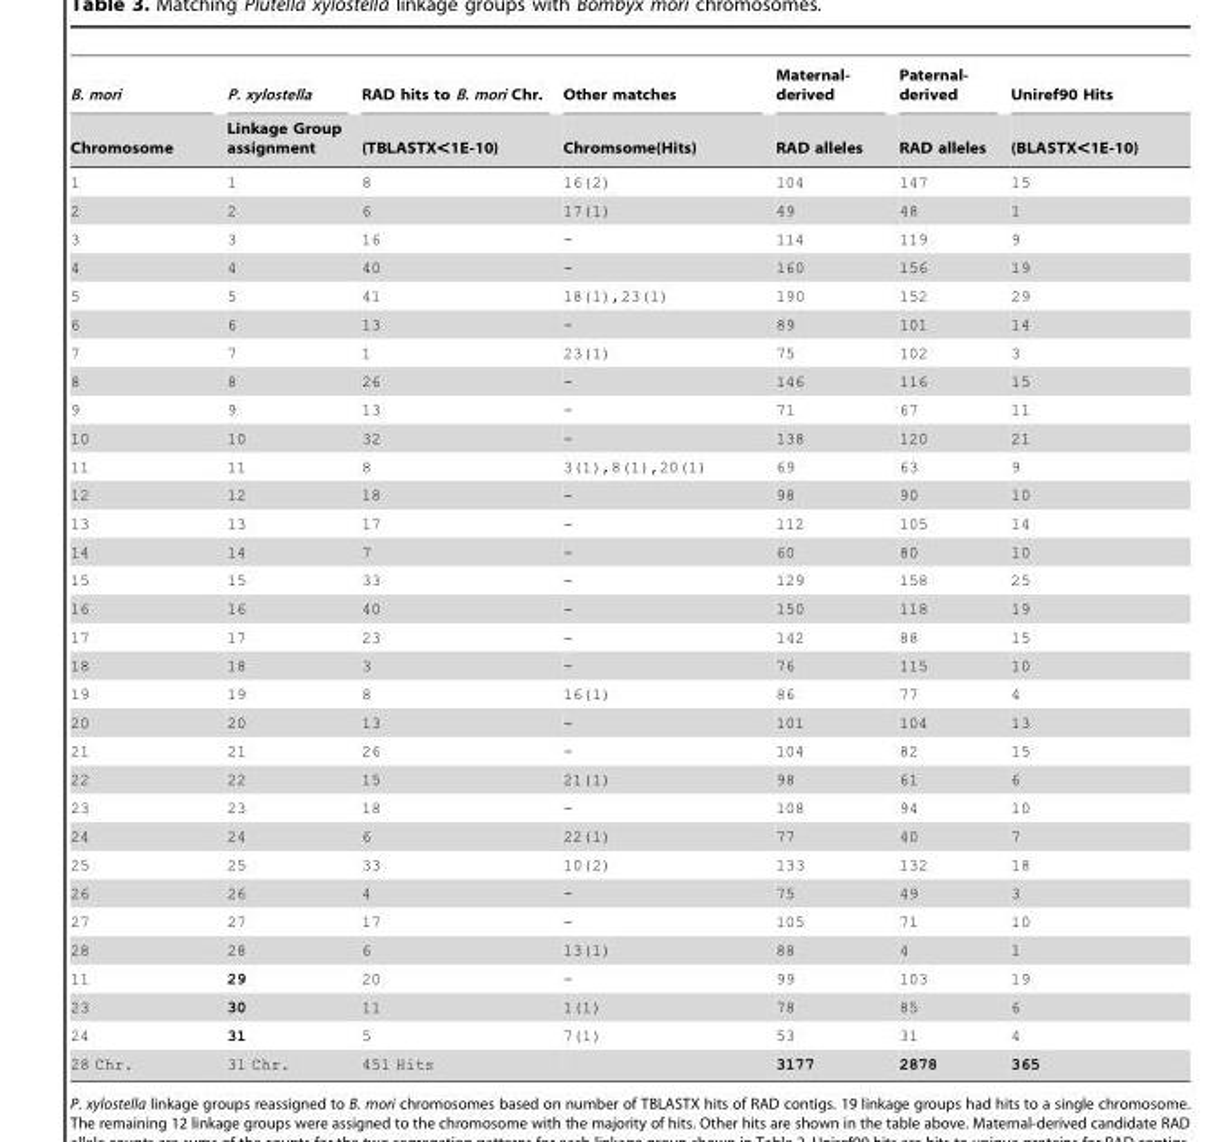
<table><thead><tr><td rowspan="2">B. mori Chromosome</td><td rowspan="2">P. xylostella Linkage Group assignment</td><td rowspan="2">RAD hits to B. mori Chr. (TBLASTX&lt;1E-10)</td><td rowspan="2">Other matches Chromsome(Hits)</td><td rowspan="2">Maternal- derived RAD alleles</td><td rowspan="2">Paternal- derived RAD alleles</td><td rowspan="2">Uniref90 Hits (BLASTX&lt;1E-10)</td></tr><tr></tr></thead><tbody><tr><td>1</td><td>1</td><td>8</td><td>16(2)</td><td>104</td><td>147</td><td>15</td></tr><tr><td>2</td><td>2</td><td>6</td><td>17(1)</td><td>49</td><td>48</td><td>1</td></tr><tr><td>3</td><td>3</td><td>16</td><td>-</td><td>114</td><td>119</td><td>9</td></tr><tr><td>4</td><td>4</td><td>40</td><td>-</td><td>160</td><td>156</td><td>19</td></tr><tr><td>5</td><td>5</td><td>41</td><td>18(1),23(1)</td><td>190</td><td>152</td><td>29</td></tr><tr><td>6</td><td>6</td><td>13</td><td>-</td><td>89</td><td>101</td><td>14</td></tr><tr><td>7</td><td>7</td><td>1</td><td>23(1)</td><td>75</td><td>102</td><td>3</td></tr><tr><td>8</td><td>8</td><td>26</td><td>-</td><td>146</td><td>116</td><td>15</td></tr><tr><td>9</td><td>9</td><td>13</td><td>-</td><td>71</td><td>67</td><td>11</td></tr><tr><td>10</td><td>10</td><td>32</td><td>-</td><td>138</td><td>120</td><td>21</td></tr><tr><td>11</td><td>11</td><td>8</td><td>3(1),8(1),20(1)</td><td>69</td><td>63</td><td>9</td></tr><tr><td>12</td><td>12</td><td>18</td><td>-</td><td>98</td><td>90</td><td>10</td></tr><tr><td>13</td><td>13</td><td>17</td><td>-</td><td>112</td><td>105</td><td>14</td></tr><tr><td>14</td><td>14</td><td>7</td><td>-</td><td>60</td><td>80</td><td>10</td></tr><tr><td>15</td><td>15</td><td>33</td><td>-</td><td>129</td><td>158</td><td>25</td></tr><tr><td>16</td><td>16</td><td>40</td><td>-</td><td>150</td><td>118</td><td>19</td></tr><tr><td>17</td><td>17</td><td>23</td><td>-</td><td>142</td><td>88</td><td>15</td></tr><tr><td>18</td><td>18</td><td>3</td><td>-</td><td>76</td><td>115</td><td>10</td></tr><tr><td>19</td><td>19</td><td>8</td><td>16(1)</td><td>86</td><td>77</td><td>4</td></tr><tr><td>20</td><td>20</td><td>13</td><td>-</td><td>101</td><td>104</td><td>13</td></tr><tr><td>21</td><td>21</td><td>26</td><td>-</td><td>104</td><td>82</td><td>15</td></tr><tr><td>22</td><td>22</td><td>15</td><td>21(1)</td><td>98</td><td>61</td><td>6</td></tr><tr><td>23</td><td>23</td><td>18</td><td>-</td><td>108</td><td>94</td><td>10</td></tr><tr><td>24</td><td>24</td><td>6</td><td>22(1)</td><td>77</td><td>40</td><td>7</td></tr><tr><td>25</td><td>25</td><td>33</td><td>10(2)</td><td>133</td><td>132</td><td>18</td></tr><tr><td>26</td><td>26</td><td>4</td><td>-</td><td>75</td><td>49</td><td>3</td></tr><tr><td>27</td><td>27</td><td>17</td><td>-</td><td>105</td><td>71</td><td>10</td></tr><tr><td>28</td><td>28</td><td>6</td><td>13(1)</td><td>88</td><td>4</td><td>1</td></tr><tr><td>11</td><td>29</td><td>20</td><td>-</td><td>99</td><td>103</td><td>19</td></tr><tr><td>23</td><td>30</td><td>11</td><td>1(1)</td><td>78</td><td>85</td><td>6</td></tr><tr><td>24</td><td>31</td><td>5</td><td>7(1)</td><td>53</td><td>31</td><td>4</td></tr><tr><td>28 Chr.</td><td>31 Chr.</td><td>451 Hits</td><td></td><td>3177</td><td>2878</td><td>365</td></tr></tbody></table>